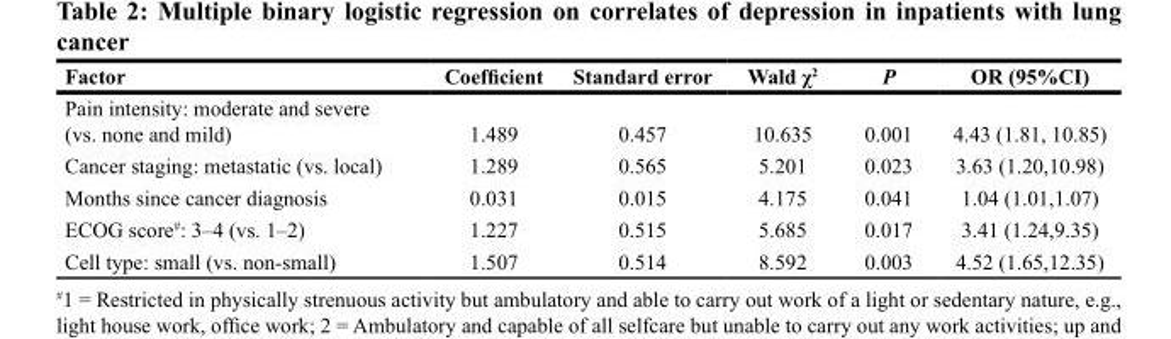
<table><thead><tr><td>Factor</td><td>Coefficient</td><td>Standard error</td><td>Wald χ<sup>2</sup></td><td>P</td><td>OR (95%CI)</td></tr></thead><tbody><tr><td>Pain intensity: moderate and severe (vs. none and mild)</td><td>1.489</td><td>0.457</td><td>10.635</td><td>0.001</td><td>4.43 (1.81, 10.85)</td></tr><tr><td>Cancer staging: metastatic (vs. local)</td><td>1.289</td><td>0.565</td><td>5.201</td><td>0.023</td><td>3.63 (1.20,10.98)</td></tr><tr><td>Months since cancer diagnosis</td><td>0.031</td><td>0.015</td><td>4.175</td><td>0.041</td><td>1.04 (1.01,1.07)</td></tr><tr><td>ECOG score<sup>#</sup>: 3–4 (vs. 1–2)</td><td>1.227</td><td>0.515</td><td>5.685</td><td>0.017</td><td>3.41 (1.24,9.35)</td></tr><tr><td>Cell type: small (vs. non-small)</td><td>1.507</td><td>0.514</td><td>8.592</td><td>0.003</td><td>4.52 (1.65,12.35)</td></tr></tbody></table>